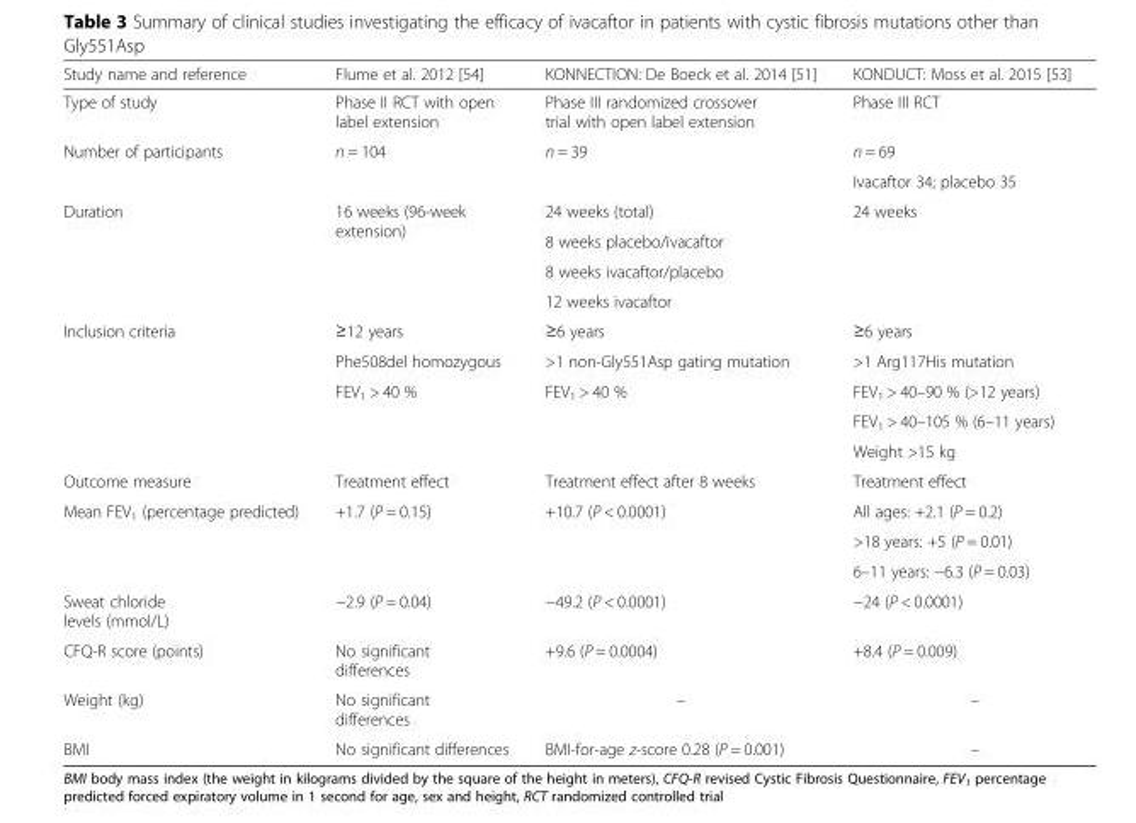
<table><thead><tr><td>Study name and reference</td><td>Flume et al. 2012 [54]</td><td>KONNECTION: De Boeck et al. 2014 [51]</td><td>KONDUCT: Moss et al. 2015 [53]</td></tr></thead><tbody><tr><td>Type of study</td><td>Phase II RCT with open label extension</td><td>Phase III randomized crossover trial with open label extension</td><td>Phase III RCT</td></tr><tr><td rowspan="2">Number of participants</td><td rowspan="2">n = 104</td><td rowspan="2">n = 39</td><td>n = 69</td></tr><tr><td>Ivacaftor 34; placebo 35</td></tr><tr><td rowspan="4">Duration</td><td rowspan="4">16 weeks (96-week extension)</td><td>24 weeks (total)</td><td rowspan="4">24 weeks</td></tr><tr><td>8 weeks placebo/ivacaftor</td></tr><tr><td>8 weeks ivacaftor/placebo</td></tr><tr><td>12 weeks ivacaftor</td></tr><tr><td rowspan="5">Inclusion criteria</td><td>≥12 years</td><td>≥6 years</td><td>≥6 years</td></tr><tr><td>Phe508del homozygous</td><td>&gt;1 non-Gly551Asp gating mutation</td><td>&gt;1 Arg117His mutation</td></tr><tr><td rowspan="3">FEV<sub>1</sub> &gt; 40 %</td><td rowspan="3">FEV<sub>1</sub> &gt; 40 %</td><td>FEV<sub>1</sub> &gt; 40–90 % (&gt;12 years)</td></tr><tr><td>FEV<sub>1</sub> &gt; 40–105 % (6–11 years)</td></tr><tr><td>Weight &gt;15 kg</td></tr><tr><td>Outcome measure</td><td>Treatment effect</td><td>Treatment effect after 8 weeks</td><td>Treatment effect</td></tr><tr><td rowspan="3">Mean FEV<sub>1</sub> (percentage predicted)</td><td rowspan="3">+1.7 (P = 0.15)</td><td rowspan="3">+10.7 (P &lt; 0.0001)</td><td>All ages: +2.1 (P = 0.2)</td></tr><tr><td>&gt;18 years: +5 (P = 0.01)</td></tr><tr><td>6–11 years: −6.3 (P = 0.03)</td></tr><tr><td>Sweat chloride levels (mmol/L)</td><td>−2.9 (P = 0.04)</td><td>−49.2 (P &lt; 0.0001)</td><td>−24 (P &lt; 0.0001)</td></tr><tr><td>CFQ-R score (points)</td><td>No significant differences</td><td>+9.6 (P = 0.0004)</td><td>+8.4 (P = 0.009)</td></tr><tr><td>Weight (kg)</td><td>No significant differences</td><td>–</td><td>–</td></tr><tr><td>BMI</td><td>No significant differences</td><td>BMI-for-age z-score 0.28 (P = 0.001)</td><td>–</td></tr></tbody></table>